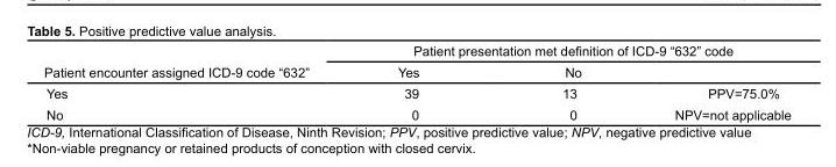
<table><thead><tr><td rowspan="2">Patient encounter assigned ICD-9 code “632”</td><td colspan="3">Patient presentation met definition of ICD-9 “632” code</td></tr><tr><td>Yes</td><td>No</td><td></td></tr></thead><tbody><tr><td>Yes</td><td>39</td><td>13</td><td>PPV=75.0%</td></tr><tr><td>No</td><td>0</td><td>0</td><td>NPV=not applicable</td></tr></tbody></table>